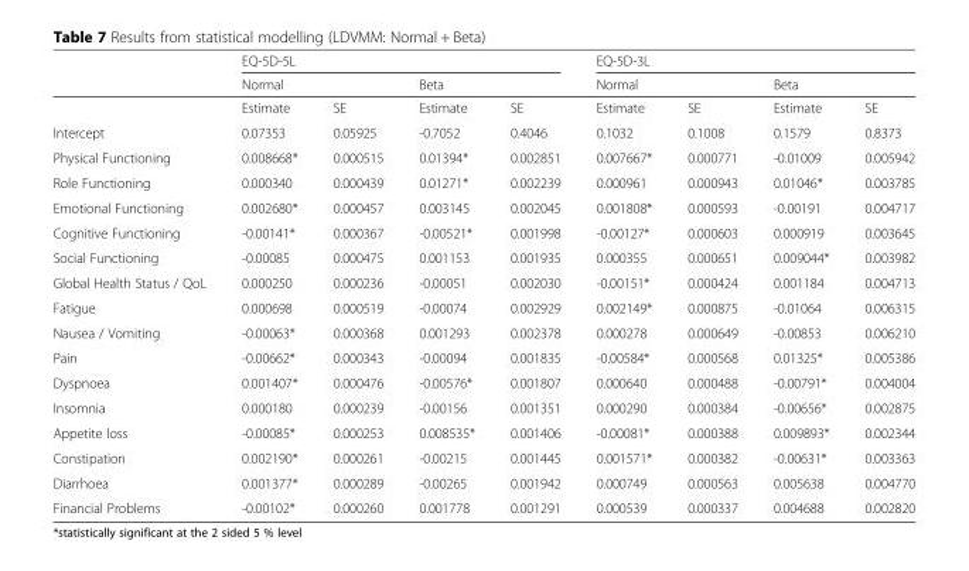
<table><thead><tr><td rowspan="3"></td><td colspan="4">EQ-5D-5L</td><td colspan="4">EQ-5D-3L</td></tr><tr><td colspan="2">Normal</td><td colspan="2">Beta</td><td colspan="2">Normal</td><td colspan="2">Beta</td></tr><tr><td>Estimate</td><td>SE</td><td>Estimate</td><td>SE</td><td>Estimate</td><td>SE</td><td>Estimate</td><td>SE</td></tr></thead><tbody><tr><td>Intercept</td><td>0.07353</td><td>0.05925</td><td>-0.7052</td><td>0.4046</td><td>0.1032</td><td>0.1008</td><td>0.1579</td><td>0.8373</td></tr><tr><td>Physical Functioning</td><td>0.008668*</td><td>0.000515</td><td>0.01394*</td><td>0.002851</td><td>0.007667*</td><td>0.000771</td><td>-0.01009</td><td>0.005942</td></tr><tr><td>Role Functioning</td><td>0.000340</td><td>0.000439</td><td>0.01271*</td><td>0.002239</td><td>0.000961</td><td>0.000943</td><td>0.01046*</td><td>0.003785</td></tr><tr><td>Emotional Functioning</td><td>0.002680*</td><td>0.000457</td><td>0.003145</td><td>0.002045</td><td>0.001808*</td><td>0.000593</td><td>-0.00191</td><td>0.004717</td></tr><tr><td>Cognitive Functioning</td><td>-0.00141*</td><td>0.000367</td><td>-0.00521*</td><td>0.001998</td><td>-0.00127*</td><td>0.000603</td><td>0.000919</td><td>0.003645</td></tr><tr><td>Social Functioning</td><td>-0.00085</td><td>0.000475</td><td>0.001153</td><td>0.001935</td><td>0.000355</td><td>0.000651</td><td>0.009044*</td><td>0.003982</td></tr><tr><td>Global Health Status / QoL</td><td>0.000250</td><td>0.000236</td><td>-0.00051</td><td>0.002030</td><td>-0.00151*</td><td>0.000424</td><td>0.001184</td><td>0.004713</td></tr><tr><td>Fatigue</td><td>0.000698</td><td>0.000519</td><td>-0.00074</td><td>0.002929</td><td>0.002149*</td><td>0.000875</td><td>-0.01064</td><td>0.006315</td></tr><tr><td>Nausea / Vomiting</td><td>-0.00063*</td><td>0.000368</td><td>0.001293</td><td>0.002378</td><td>0.000278</td><td>0.000649</td><td>-0.00853</td><td>0.006210</td></tr><tr><td>Pain</td><td>-0.00662*</td><td>0.000343</td><td>-0.00094</td><td>0.001835</td><td>-0.00584*</td><td>0.000568</td><td>0.01325*</td><td>0.005386</td></tr><tr><td>Dyspnoea</td><td>0.001407*</td><td>0.000476</td><td>-0.00576*</td><td>0.001807</td><td>0.000640</td><td>0.000488</td><td>-0.00791*</td><td>0.004004</td></tr><tr><td>Insomnia</td><td>0.000180</td><td>0.000239</td><td>-0.00156</td><td>0.001351</td><td>0.000290</td><td>0.000384</td><td>-0.00656*</td><td>0.002875</td></tr><tr><td>Appetite loss</td><td>-0.00085*</td><td>0.000253</td><td>0.008535*</td><td>0.001406</td><td>-0.00081*</td><td>0.000388</td><td>0.009893*</td><td>0.002344</td></tr><tr><td>Constipation</td><td>0.002190*</td><td>0.000261</td><td>-0.00215</td><td>0.001445</td><td>0.001571*</td><td>0.000382</td><td>-0.00631*</td><td>0.003363</td></tr><tr><td>Diarrhoea</td><td>0.001377*</td><td>0.000289</td><td>-0.00265</td><td>0.001942</td><td>0.000749</td><td>0.000563</td><td>0.005638</td><td>0.004770</td></tr><tr><td>Financial Problems</td><td>-0.00102*</td><td>0.000260</td><td>0.001778</td><td>0.001291</td><td>0.000539</td><td>0.000337</td><td>0.004688</td><td>0.002820</td></tr></tbody></table>